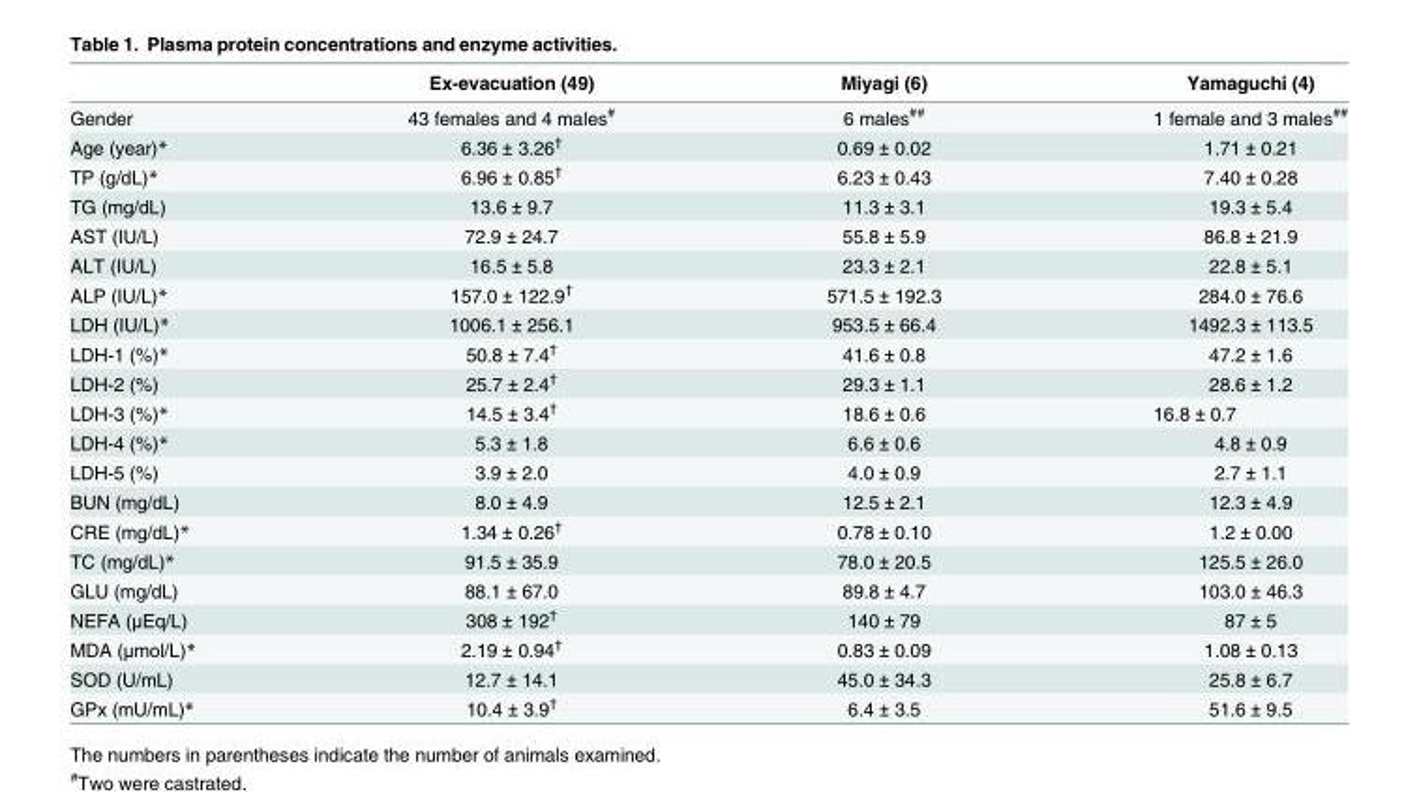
<table><thead><tr><td></td><td>Ex-evacuation (49)</td><td>Miyagi (6)</td><td>Yamaguchi (4)</td></tr></thead><tbody><tr><td>Gender</td><td>43 females and 4 males<sup>#</sup></td><td>6 males<sup>##</sup></td><td>1 female and 3 males<sup>##</sup></td></tr><tr><td>Age (year)*</td><td>6.36 ± 3.26<sup>†</sup></td><td>0.69 ± 0.02</td><td>1.71 ± 0.21</td></tr><tr><td>TP (g/dL)*</td><td>6.96 ± 0.85<sup>†</sup></td><td>6.23 ± 0.43</td><td>7.40 ± 0.28</td></tr><tr><td>TG (mg/dL)</td><td>13.6 ± 9.7</td><td>11.3 ± 3.1</td><td>19.3 ± 5.4</td></tr><tr><td>AST (IU/L)</td><td>72.9 ± 24.7</td><td>55.8 ± 5.9</td><td>86.8 ± 21.9</td></tr><tr><td>ALT (IU/L)</td><td>16.5 ± 5.8</td><td>23.3 ± 2.1</td><td>22.8 ± 5.1</td></tr><tr><td>ALP (IU/L)*</td><td>157.0 ± 122.9<sup>†</sup></td><td>571.5 ± 192.3</td><td>284.0 ± 76.6</td></tr><tr><td>LDH (IU/L)*</td><td>1006.1 ± 256.1</td><td>953.5 ± 66.4</td><td>1492.3 ± 113.5</td></tr><tr><td>LDH-1 (%)*</td><td>50.8 ± 7.4<sup>†</sup></td><td>41.6 ± 0.8</td><td>47.2 ± 1.6</td></tr><tr><td>LDH-2 (%)</td><td>25.7 ± 2.4<sup>†</sup></td><td>29.3 ± 1.1</td><td>28.6 ± 1.2</td></tr><tr><td>LDH-3 (%)*</td><td>14.5 ± 3.4<sup>†</sup></td><td>18.6 ± 0.6</td><td>16.8 ± 0.7</td></tr><tr><td>LDH-4 (%)*</td><td>5.3 ± 1.8</td><td>6.6 ± 0.6</td><td>4.8 ± 0.9</td></tr><tr><td>LDH-5 (%)</td><td>3.9 ± 2.0</td><td>4.0 ± 0.9</td><td>2.7 ± 1.1</td></tr><tr><td>BUN (mg/dL)</td><td>8.0 ± 4.9</td><td>12.5 ± 2.1</td><td>12.3 ± 4.9</td></tr><tr><td>CRE (mg/dL)*</td><td>1.34 ± 0.26<sup>†</sup></td><td>0.78 ± 0.10</td><td>1.2 ± 0.00</td></tr><tr><td>TC (mg/dL)*</td><td>91.5 ± 35.9</td><td>78.0 ± 20.5</td><td>125.5 ± 26.0</td></tr><tr><td>GLU (mg/dL)</td><td>88.1 ± 67.0</td><td>89.8 ± 4.7</td><td>103.0 ± 46.3</td></tr><tr><td>NEFA (μEq/L)</td><td>308 ± 192<sup>†</sup></td><td>140 ± 79</td><td>87 ± 5</td></tr><tr><td>MDA (μmol/L)*</td><td>2.19 ± 0.94<sup>†</sup></td><td>0.83 ± 0.09</td><td>1.08 ± 0.13</td></tr><tr><td>SOD (U/mL)</td><td>12.7 ± 14.1</td><td>45.0 ± 34.3</td><td>25.8 ± 6.7</td></tr><tr><td>GPx (mU/mL)*</td><td>10.4 ± 3.9<sup>†</sup></td><td>6.4 ± 3.5</td><td>51.6 ± 9.5</td></tr></tbody></table>